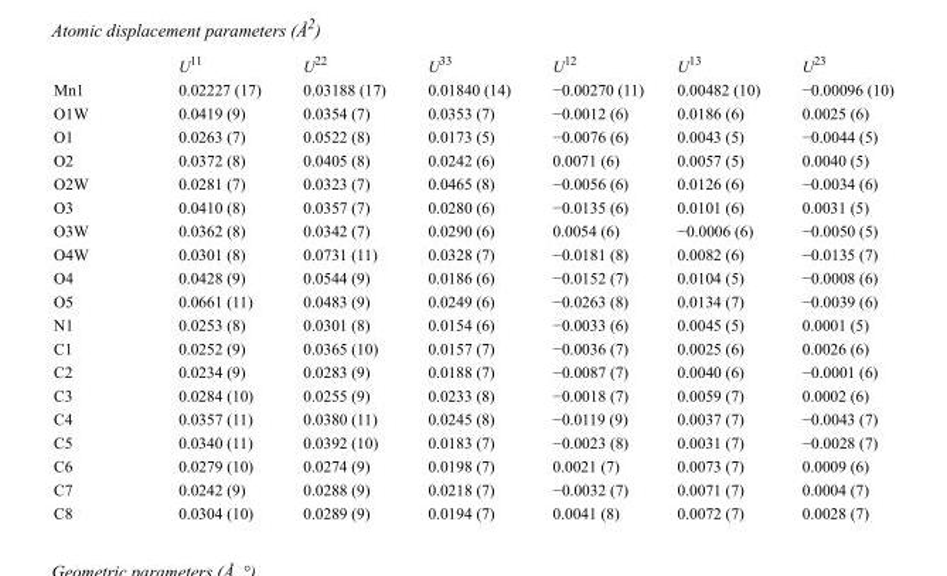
<table><thead><tr><td></td><td>U<sup>11</sup></td><td>U<sup>22</sup></td><td>U<sup>33</sup></td><td>U<sup>12</sup></td><td>U<sup>13</sup></td><td>U<sup>23</sup></td></tr></thead><tbody><tr><td>Mn1</td><td>0.02227 (17)</td><td>0.03188 (17)</td><td>0.01840 (14)</td><td>−0.00270 (11)</td><td>0.00482 (10)</td><td>−0.00096 (10)</td></tr><tr><td>O1W</td><td>0.0419 (9)</td><td>0.0354 (7)</td><td>0.0353 (7)</td><td>−0.0012 (6)</td><td>0.0186 (6)</td><td>0.0025 (6)</td></tr><tr><td>O1</td><td>0.0263 (7)</td><td>0.0522 (8)</td><td>0.0173 (5)</td><td>−0.0076 (6)</td><td>0.0043 (5)</td><td>−0.0044 (5)</td></tr><tr><td>O2</td><td>0.0372 (8)</td><td>0.0405 (8)</td><td>0.0242 (6)</td><td>0.0071 (6)</td><td>0.0057 (5)</td><td>0.0040 (5)</td></tr><tr><td>O2W</td><td>0.0281 (7)</td><td>0.0323 (7)</td><td>0.0465 (8)</td><td>−0.0056 (6)</td><td>0.0126 (6)</td><td>−0.0034 (6)</td></tr><tr><td>O3</td><td>0.0410 (8)</td><td>0.0357 (7)</td><td>0.0280 (6)</td><td>−0.0135 (6)</td><td>0.0101 (6)</td><td>0.0031 (5)</td></tr><tr><td>O3W</td><td>0.0362 (8)</td><td>0.0342 (7)</td><td>0.0290 (6)</td><td>0.0054 (6)</td><td>−0.0006 (6)</td><td>−0.0050 (5)</td></tr><tr><td>O4W</td><td>0.0301 (8)</td><td>0.0731 (11)</td><td>0.0328 (7)</td><td>−0.0181 (8)</td><td>0.0082 (6)</td><td>−0.0135 (7)</td></tr><tr><td>O4</td><td>0.0428 (9)</td><td>0.0544 (9)</td><td>0.0186 (6)</td><td>−0.0152 (7)</td><td>0.0104 (5)</td><td>−0.0008 (6)</td></tr><tr><td>O5</td><td>0.0661 (11)</td><td>0.0483 (9)</td><td>0.0249 (6)</td><td>−0.0263 (8)</td><td>0.0134 (7)</td><td>−0.0039 (6)</td></tr><tr><td>N1</td><td>0.0253 (8)</td><td>0.0301 (8)</td><td>0.0154 (6)</td><td>−0.0033 (6)</td><td>0.0045 (5)</td><td>0.0001 (5)</td></tr><tr><td>C1</td><td>0.0252 (9)</td><td>0.0365 (10)</td><td>0.0157 (7)</td><td>−0.0036 (7)</td><td>0.0025 (6)</td><td>0.0026 (6)</td></tr><tr><td>C2</td><td>0.0234 (9)</td><td>0.0283 (9)</td><td>0.0188 (7)</td><td>−0.0087 (7)</td><td>0.0040 (6)</td><td>−0.0001 (6)</td></tr><tr><td>C3</td><td>0.0284 (10)</td><td>0.0255 (9)</td><td>0.0233 (8)</td><td>−0.0018 (7)</td><td>0.0059 (7)</td><td>0.0002 (6)</td></tr><tr><td>C4</td><td>0.0357 (11)</td><td>0.0380 (11)</td><td>0.0245 (8)</td><td>−0.0119 (9)</td><td>0.0037 (7)</td><td>−0.0043 (7)</td></tr><tr><td>C5</td><td>0.0340 (11)</td><td>0.0392 (10)</td><td>0.0183 (7)</td><td>−0.0023 (8)</td><td>0.0031 (7)</td><td>−0.0028 (7)</td></tr><tr><td>C6</td><td>0.0279 (10)</td><td>0.0274 (9)</td><td>0.0198 (7)</td><td>0.0021 (7)</td><td>0.0073 (7)</td><td>0.0009 (6)</td></tr><tr><td>C7</td><td>0.0242 (9)</td><td>0.0288 (9)</td><td>0.0218 (7)</td><td>−0.0032 (7)</td><td>0.0071 (7)</td><td>0.0004 (7)</td></tr><tr><td>C8</td><td>0.0304 (10)</td><td>0.0289 (9)</td><td>0.0194 (7)</td><td>0.0041 (8)</td><td>0.0072 (7)</td><td>0.0028 (7)</td></tr></tbody></table>